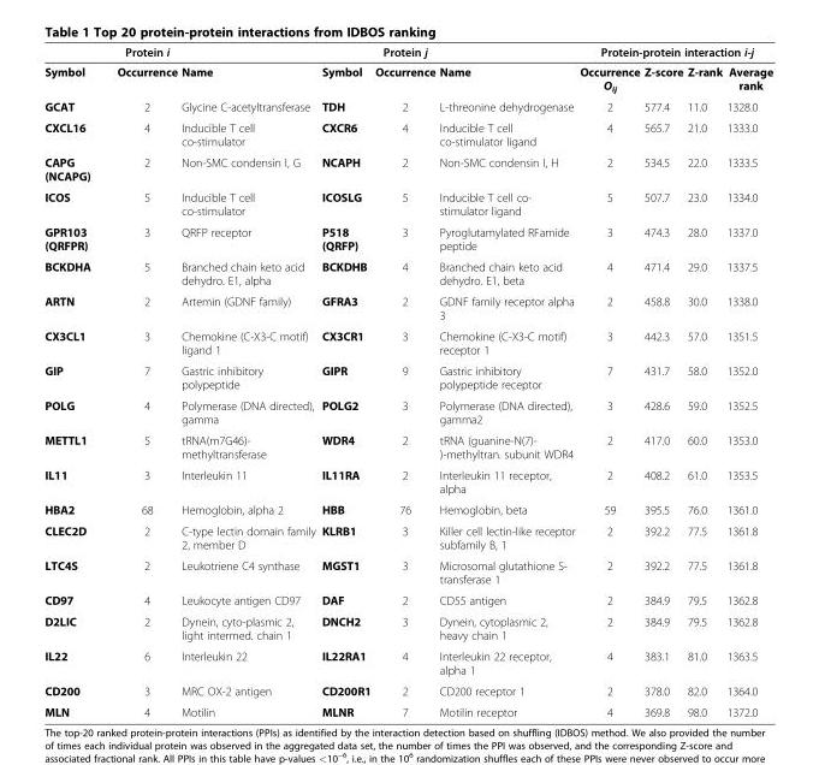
<table><thead><tr><td rowspan="2">Symbol</td><td rowspan="2">Protein i Occurrence</td><td rowspan="2">Name</td><td rowspan="2">Symbol</td><td rowspan="2">Protein j Occurrence</td><td rowspan="2">Name</td><td colspan="4">Protein-protein interaction i-j</td></tr><tr><td>Occurrence O<sub>ij</sub></td><td>Z-score</td><td>Z-rank</td><td>Average rank</td></tr></thead><tbody><tr><td>GCAT</td><td>2</td><td>Glycine C-acetyltransferase</td><td>TDH</td><td>2</td><td>L-threonine dehydrogenase</td><td>2</td><td>577.4</td><td>11.0</td><td>1328.0</td></tr><tr><td>CXCL16</td><td>4</td><td>Inducible T cell co-stimulator</td><td>CXCR6</td><td>4</td><td>Inducible T cell co-stimulator ligand</td><td>4</td><td>565.7</td><td>21.0</td><td>1333.0</td></tr><tr><td>CAPG (NCAPG)</td><td>2</td><td>Non-SMC condensin I, G</td><td>NCAPH</td><td>2</td><td>Non-SMC condensin I, H</td><td>2</td><td>534.5</td><td>22.0</td><td>1333.5</td></tr><tr><td>ICOS</td><td>5</td><td>Inducible T cell co-stimulator</td><td>ICOSLG</td><td>5</td><td>Inducible T cell co- stimulator ligand</td><td>5</td><td>507.7</td><td>23.0</td><td>1334.0</td></tr><tr><td>GPR103 (QRFPR)</td><td>3</td><td>QRFP receptor</td><td>P518 (QRFP)</td><td>3</td><td>Pyroglutamylated RFamide peptide</td><td>3</td><td>474.3</td><td>28.0</td><td>1337.0</td></tr><tr><td>BCKDHA</td><td>5</td><td>Branched chain keto acid dehydro. E1, alpha</td><td>BCKDHB</td><td>4</td><td>Branched chain keto acid dehydro. E1, beta</td><td>4</td><td>471.4</td><td>29.0</td><td>1337.5</td></tr><tr><td>ARTN</td><td>2</td><td>Artemin (GDNF family)</td><td>GFRA3</td><td>2</td><td>GDNF family receptor alpha 3</td><td>2</td><td>458.8</td><td>30.0</td><td>1338.0</td></tr><tr><td>CX3CL1</td><td>3</td><td>Chemokine (C-X3-C motif) ligand 1</td><td>CX3CR1</td><td>3</td><td>Chemokine (C-X3-C motif) receptor 1</td><td>3</td><td>442.3</td><td>57.0</td><td>1351.5</td></tr><tr><td>GIP</td><td>7</td><td>Gastric inhibitory polypeptide</td><td>GIPR</td><td>9</td><td>Gastric inhibitory polypeptide receptor</td><td>7</td><td>431.7</td><td>58.0</td><td>1352.0</td></tr><tr><td>POLG</td><td>4</td><td>Polymerase (DNA directed), gamma</td><td>POLG2</td><td>3</td><td>Polymerase (DNA directed), gamma2</td><td>3</td><td>428.6</td><td>59.0</td><td>1352.5</td></tr><tr><td>METTL1</td><td>5</td><td>tRNA(m7G46)- methyltransferase</td><td>WDR4</td><td>2</td><td>tRNA (guanine-N(7)- )-methyltran. subunit WDR4</td><td>2</td><td>417.0</td><td>60.0</td><td>1353.0</td></tr><tr><td>IL11</td><td>3</td><td>Interleukin 11</td><td>IL11RA</td><td>2</td><td>Interleukin 11 receptor, alpha</td><td>2</td><td>408.2</td><td>61.0</td><td>1353.5</td></tr><tr><td>HBA2</td><td>68</td><td>Hemoglobin, alpha 2</td><td>HBB</td><td>76</td><td>Hemoglobin, beta</td><td>59</td><td>395.5</td><td>76.0</td><td>1361.0</td></tr><tr><td>CLEC2D</td><td>2</td><td>C-type lectin domain family 2, member D</td><td>KLRB1</td><td>3</td><td>Killer cell lectin-like receptor subfamily B, 1</td><td>2</td><td>392.2</td><td>77.5</td><td>1361.8</td></tr><tr><td>LTC4S</td><td>2</td><td>Leukotriene C4 synthase</td><td>MGST1</td><td>3</td><td>Microsomal glutathione S- transferase 1</td><td>2</td><td>392.2</td><td>77.5</td><td>1361.8</td></tr><tr><td>CD97</td><td>4</td><td>Leukocyte antigen CD97</td><td>DAF</td><td>2</td><td>CD55 antigen</td><td>2</td><td>384.9</td><td>79.5</td><td>1362.8</td></tr><tr><td>D2LIC</td><td>2</td><td>Dynein, cyto-plasmic 2, light intermed. chain 1</td><td>DNCH2</td><td>3</td><td>Dynein, cytoplasmic 2, heavy chain 1</td><td>2</td><td>384.9</td><td>79.5</td><td>1362.8</td></tr><tr><td>IL22</td><td>6</td><td>Interleukin 22</td><td>IL22RA1</td><td>4</td><td>Interleukin 22 receptor, alpha 1</td><td>4</td><td>383.1</td><td>81.0</td><td>1363.5</td></tr><tr><td>CD200</td><td>3</td><td>MRC OX-2 antigen</td><td>CD200R1</td><td>2</td><td>CD200 receptor 1</td><td>2</td><td>378.0</td><td>82.0</td><td>1364.0</td></tr><tr><td>MLN</td><td>4</td><td>Motilin</td><td>MLNR</td><td>7</td><td>Motilin receptor</td><td>4</td><td>369.8</td><td>98.0</td><td>1372.0</td></tr></tbody></table>